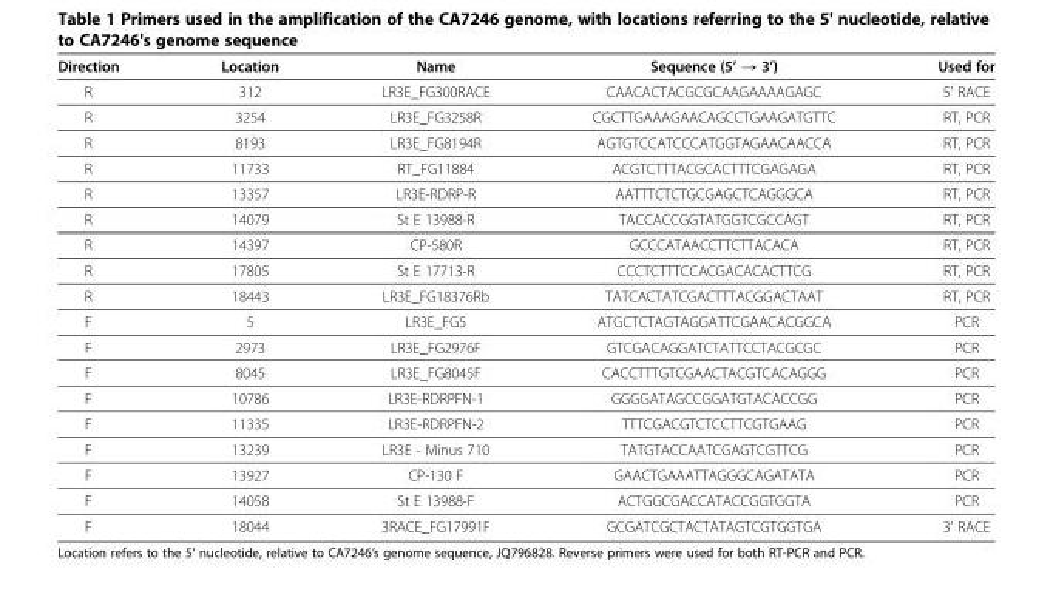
<table><thead><tr><td>Direction</td><td>Location</td><td>Name</td><td>Sequence (5’ → 3’)</td><td>Used for</td></tr></thead><tbody><tr><td>R</td><td>312</td><td>LR3E_FG300RACE</td><td>CAACACTACGCGCAAGAAAAGAGC</td><td>5&#x27; RACE</td></tr><tr><td>R</td><td>3254</td><td>LR3E_FG3258R</td><td>CGCTTGAAAGAACAGCCTGAAGATGTTC</td><td>RT, PCR</td></tr><tr><td>R</td><td>8193</td><td>LR3E_FG8194R</td><td>AGTGTCCATCCCATGGTAGAACAACCA</td><td>RT, PCR</td></tr><tr><td>R</td><td>11733</td><td>RT_FG11884</td><td>ACGTCTTTACGCACTTTCGAGAGA</td><td>RT, PCR</td></tr><tr><td>R</td><td>13357</td><td>LR3E-RDRP-R</td><td>AATTTCTCTGCGAGCTCAGGGCA</td><td>RT, PCR</td></tr><tr><td>R</td><td>14079</td><td>St E 13988-R</td><td>TACCACCGGTATGGTCGCCAGT</td><td>RT, PCR</td></tr><tr><td>R</td><td>14397</td><td>CP-580R</td><td>GCCCATAACCTTCTTACACA</td><td>RT, PCR</td></tr><tr><td>R</td><td>17805</td><td>St E 17713-R</td><td>CCCTCTTTCCACGACACACTTCG</td><td>RT, PCR</td></tr><tr><td>R</td><td>18443</td><td>LR3E_FG18376Rb</td><td>TATCACTATCGACTTTACGGACTAAT</td><td>RT, PCR</td></tr><tr><td>F</td><td>5</td><td>LR3E_FG5</td><td>ATGCTCTAGTAGGATTCGAACACGGCA</td><td>PCR</td></tr><tr><td>F</td><td>2973</td><td>LR3E_FG2976F</td><td>GTCGACAGGATCTATTCCTACGCGC</td><td>PCR</td></tr><tr><td>F</td><td>8045</td><td>LR3E_FG8045F</td><td>CACCTTTGTCGAACTACGTCACAGGG</td><td>PCR</td></tr><tr><td>F</td><td>10786</td><td>LR3E-RDRPFN-1</td><td>GGGGATAGCCGGATGTACACCGG</td><td>PCR</td></tr><tr><td>F</td><td>11335</td><td>LR3E-RDRPFN-2</td><td>TTTCGACGTCTCCTTCGTGAAG</td><td>PCR</td></tr><tr><td>F</td><td>13239</td><td>LR3E - Minus 710</td><td>TATGTACCAATCGAGTCGTTCG</td><td>PCR</td></tr><tr><td>F</td><td>13927</td><td>CP-130 F</td><td>GAACTGAAATTAGGGCAGATATA</td><td>PCR</td></tr><tr><td>F</td><td>14058</td><td>St E 13988-F</td><td>ACTGGCGACCATACCGGTGGTA</td><td>PCR</td></tr><tr><td>F</td><td>18044</td><td>3RACE_FG17991F</td><td>GCGATCGCTACTATAGTCGTGGTGA</td><td>3&#x27; RACE</td></tr></tbody></table>